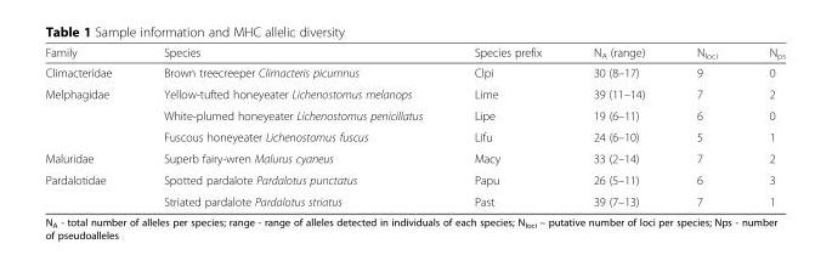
<table><thead><tr><td>Family</td><td>Species</td><td>Species prefix</td><td>N<sub>A</sub> (range)</td><td>N<sub>loci</sub></td><td>N<sub>ps</sub></td></tr></thead><tbody><tr><td>Climacteridae</td><td>Brown treecreeper Climacteris picumnus</td><td>Clpi</td><td>30 (8–17)</td><td>9</td><td>0</td></tr><tr><td rowspan="3">Melphagidae</td><td>Yellow-tufted honeyeater Lichenostomus melanops</td><td>Lime</td><td>39 (11–14)</td><td>7</td><td>2</td></tr><tr><td>White-plumed honeyeater Lichenostomus penicillatus</td><td>Lipe</td><td>19 (6–11)</td><td>6</td><td>0</td></tr><tr><td>Fuscous honeyeater Lichenostomus fuscus</td><td>Lifu</td><td>24 (6–10)</td><td>5</td><td>1</td></tr><tr><td>Maluridae</td><td>Superb fairy-wren Malurus cyaneus</td><td>Macy</td><td>33 (2–14)</td><td>7</td><td>2</td></tr><tr><td rowspan="2">Pardalotidae</td><td>Spotted pardalote Pardalotus punctatus</td><td>Papu</td><td>26 (5–11)</td><td>6</td><td>3</td></tr><tr><td>Striated pardalote Pardalotus striatus</td><td>Past</td><td>39 (7–13)</td><td>7</td><td>1</td></tr></tbody></table>